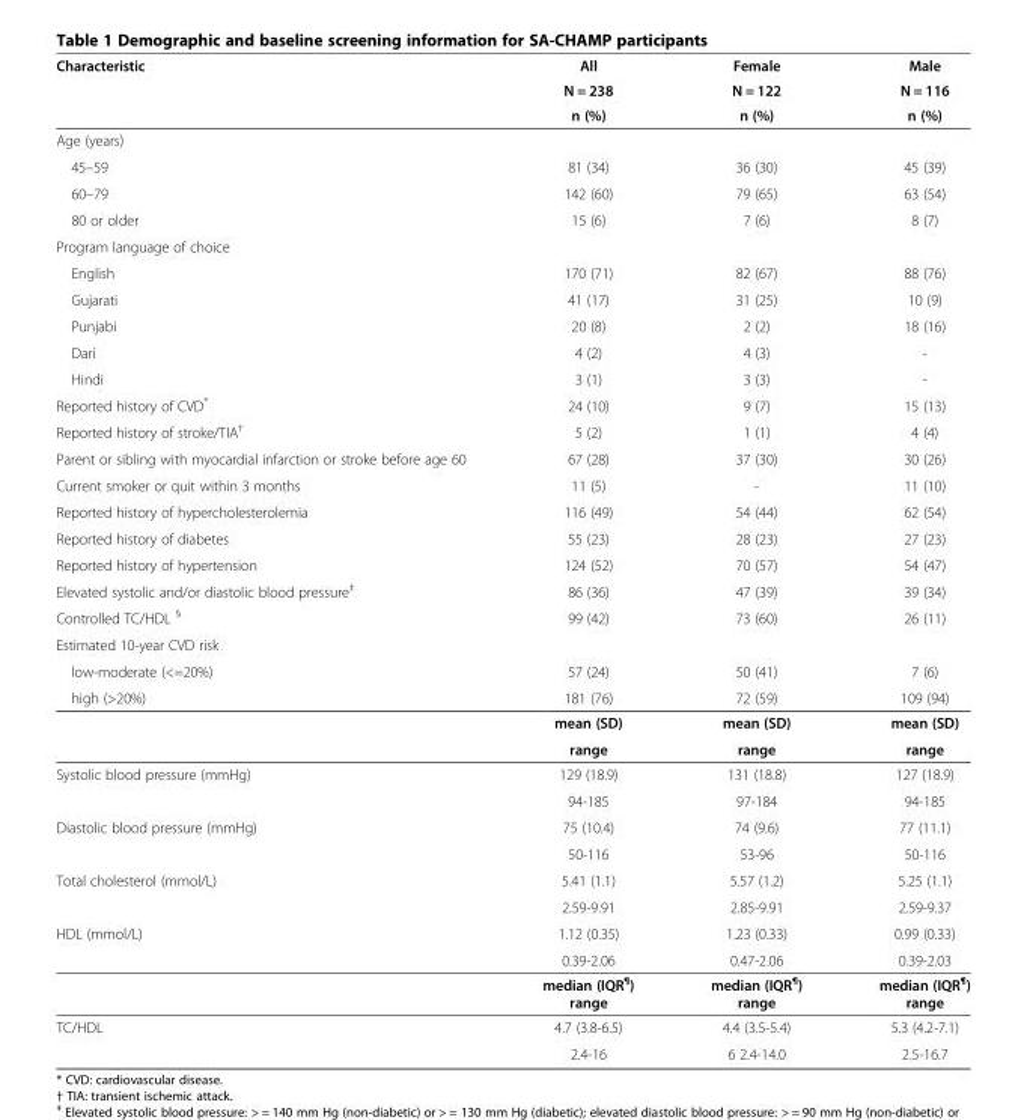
<table><thead><tr><td rowspan="3">Characteristic</td><td rowspan="3">All N = 238 n (%)</td><td rowspan="3">Female N = 122 n (%)</td><td rowspan="3">Male N = 116 n (%)</td></tr><tr></tr><tr></tr></thead><tbody><tr><td colspan="4">Age (years)</td></tr><tr><td>45–59</td><td>81 (34)</td><td>36 (30)</td><td>45 (39)</td></tr><tr><td>60–79</td><td>142 (60)</td><td>79 (65)</td><td>63 (54)</td></tr><tr><td>80 or older</td><td>15 (6)</td><td>7 (6)</td><td>8 (7)</td></tr><tr><td colspan="4">Program language of choice</td></tr><tr><td>English</td><td>170 (71)</td><td>82 (67)</td><td>88 (76)</td></tr><tr><td>Gujarati</td><td>41 (17)</td><td>31 (25)</td><td>10 (9)</td></tr><tr><td>Punjabi</td><td>20 (8)</td><td>2 (2)</td><td>18 (16)</td></tr><tr><td>Dari</td><td>4 (2)</td><td>4 (3)</td><td>-</td></tr><tr><td>Hindi</td><td>3 (1)</td><td>3 (3)</td><td>-</td></tr><tr><td>Reported history of CVD*</td><td>24 (10)</td><td>9 (7)</td><td>15 (13)</td></tr><tr><td>Reported history of stroke/TIA<sup>†</sup></td><td>5 (2)</td><td>1 (1)</td><td>4 (4)</td></tr><tr><td>Parent or sibling with myocardial infarction or stroke before age 60</td><td>67 (28)</td><td>37 (30)</td><td>30 (26)</td></tr><tr><td>Current smoker or quit within 3 months</td><td>11 (5)</td><td>-</td><td>11 (10)</td></tr><tr><td>Reported history of hypercholesterolemia</td><td>116 (49)</td><td>54 (44)</td><td>62 (54)</td></tr><tr><td>Reported history of diabetes</td><td>55 (23)</td><td>28 (23)</td><td>27 (23)</td></tr><tr><td>Reported history of hypertension</td><td>124 (52)</td><td>70 (57)</td><td>54 (47)</td></tr><tr><td>Elevated systolic and/or diastolic blood pressure<sup>‡</sup></td><td>86 (36)</td><td>47 (39)</td><td>39 (34)</td></tr><tr><td>Controlled TC/HDL <sup>§</sup></td><td>99 (42)</td><td>73 (60)</td><td>26 (11)</td></tr><tr><td colspan="4">Estimated 10-year CVD risk</td></tr><tr><td>low-moderate (&lt;=20%)</td><td>57 (24)</td><td>50 (41)</td><td>7 (6)</td></tr><tr><td rowspan="3">high (&gt;20%)</td><td>181 (76)</td><td>72 (59)</td><td>109 (94)</td></tr><tr><td>mean (SD)</td><td>mean (SD)</td><td>mean (SD)</td></tr><tr><td>range</td><td>range</td><td>range</td></tr><tr><td rowspan="2">Systolic blood pressure (mmHg)</td><td>129 (18.9)</td><td>131 (18.8)</td><td>127 (18.9)</td></tr><tr><td>94-185</td><td>97-184</td><td>94-185</td></tr><tr><td rowspan="2">Diastolic blood pressure (mmHg)</td><td>75 (10.4)</td><td>74 (9.6)</td><td>77 (11.1)</td></tr><tr><td>50-116</td><td>53-96</td><td>50-116</td></tr><tr><td rowspan="2">Total cholesterol (mmol/L)</td><td>5.41 (1.1)</td><td>5.57 (1.2)</td><td>5.25 (1.1)</td></tr><tr><td>2.59-9.91</td><td>2.85-9.91</td><td>2.59-9.37</td></tr><tr><td rowspan="3">HDL (mmol/L)</td><td>1.12 (0.35)</td><td>1.23 (0.33)</td><td>0.99 (0.33)</td></tr><tr><td>0.39-2.06</td><td>0.47-2.06</td><td>0.39-2.03</td></tr><tr><td>median (IQR<sup>¶</sup>) range</td><td>median (IQR<sup>¶</sup>) range</td><td>median (IQR<sup>¶</sup>) range</td></tr><tr><td rowspan="2">TC/HDL</td><td>4.7 (3.8-6.5)</td><td>4.4 (3.5-5.4)</td><td>5.3 (4.2-7.1)</td></tr><tr><td>2.4-16</td><td>6 2.4-14.0</td><td>2.5-16.7</td></tr></tbody></table>